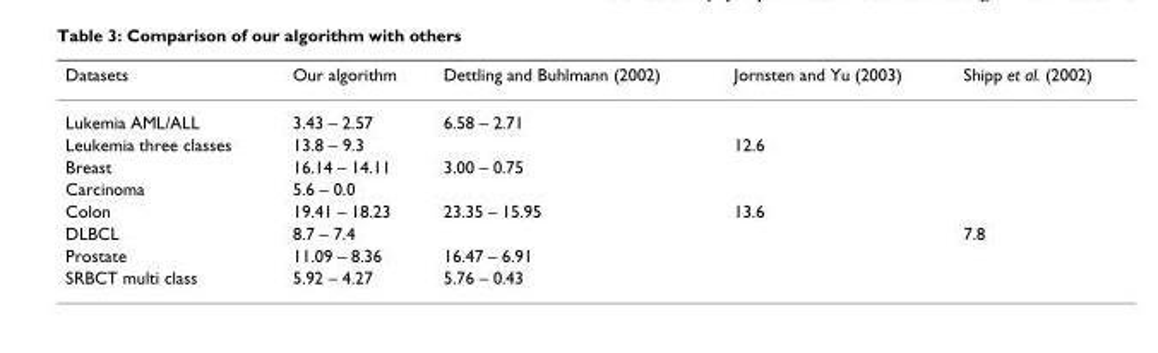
<table><thead><tr><td>Datasets</td><td>Our algorithm</td><td>Dettling and Buhlmann (2002)</td><td>Jornsten and Yu (2003)</td><td>Shipp et al. (2002)</td></tr></thead><tbody><tr><td>Lukemia AML/ALL</td><td>3.43 – 2.57</td><td>6.58 – 2.71</td><td></td><td></td></tr><tr><td>Leukemia three classes</td><td>13.8 – 9.3</td><td></td><td>12.6</td><td></td></tr><tr><td>Breast</td><td>16.14 – 14.11</td><td>3.00 – 0.75</td><td></td><td></td></tr><tr><td>Carcinoma</td><td>5.6 – 0.0</td><td></td><td></td><td></td></tr><tr><td>Colon</td><td>19.41 – 18.23</td><td>23.35 – 15.95</td><td>13.6</td><td></td></tr><tr><td>DLBCL</td><td>8.7 – 7.4</td><td></td><td></td><td>7.8</td></tr><tr><td>Prostate</td><td>11.09 – 8.36</td><td>16.47 – 6.91</td><td></td><td></td></tr><tr><td>SRBCT multi class</td><td>5.92 – 4.27</td><td>5.76 – 0.43</td><td></td><td></td></tr></tbody></table>